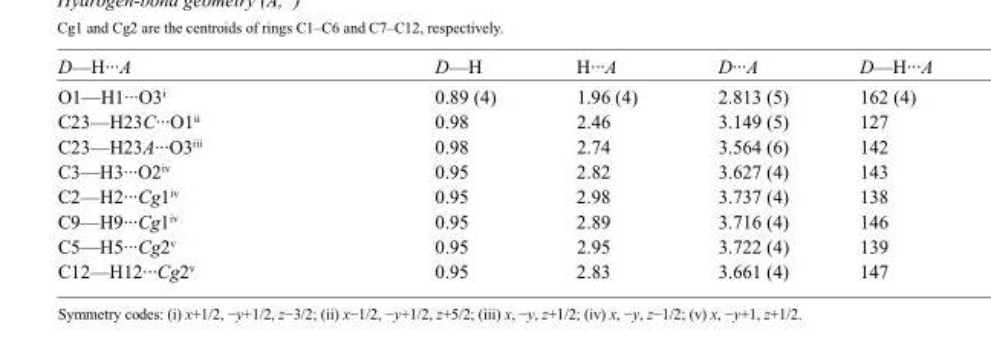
<table><tbody><tr><td>D—H···A</td><td>D—H</td><td>H···A</td><td>D···A</td><td>D—H···A</td></tr><tr><td>O1—H1···O3<sup>i</sup></td><td>0.89 (4)</td><td>1.96 (4)</td><td>2.813 (5)</td><td>162 (4)</td></tr><tr><td>C23—H23C···O1<sup>ii</sup></td><td>0.98</td><td>2.46</td><td>3.149 (5)</td><td>127</td></tr><tr><td>C23—H23A···O3<sup>iii</sup></td><td>0.98</td><td>2.74</td><td>3.564 (6)</td><td>142</td></tr><tr><td>C3—H3···O2<sup>iv</sup></td><td>0.95</td><td>2.82</td><td>3.627 (4)</td><td>143</td></tr><tr><td>C2—H2···Cg1<sup>iv</sup></td><td>0.95</td><td>2.98</td><td>3.737 (4)</td><td>138</td></tr><tr><td>C9—H9···Cg1<sup>iv</sup></td><td>0.95</td><td>2.89</td><td>3.716 (4)</td><td>146</td></tr><tr><td>C5—H5···Cg2<sup>v</sup></td><td>0.95</td><td>2.95</td><td>3.722 (4)</td><td>139</td></tr><tr><td>C12—H12···Cg2<sup>v</sup></td><td>0.95</td><td>2.83</td><td>3.661 (4)</td><td>147</td></tr></tbody></table>